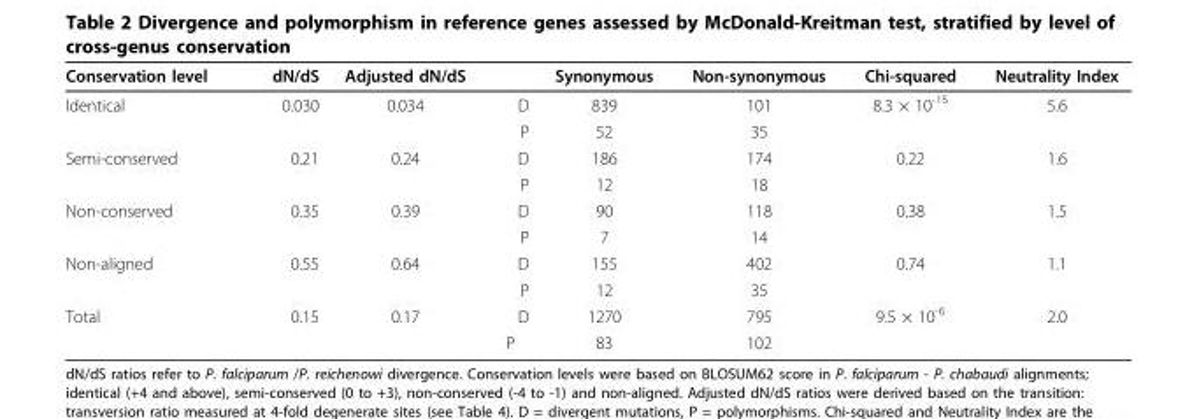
<table><thead><tr><td>Conservation level</td><td>dN/dS</td><td>Adjusted dN/dS</td><td></td><td>Synonymous</td><td>Non-synonymous</td><td>Chi-squared</td><td>Neutrality Index</td></tr></thead><tbody><tr><td rowspan="2">Identical</td><td>0.030</td><td>0.034</td><td>D</td><td>839</td><td>101</td><td>8.3 × 10<sup>-15</sup></td><td>5.6</td></tr><tr><td></td><td></td><td>P</td><td>52</td><td>35</td><td></td><td></td></tr><tr><td rowspan="2">Semi-conserved</td><td>0.21</td><td>0.24</td><td>D</td><td>186</td><td>174</td><td>0.22</td><td>1.6</td></tr><tr><td></td><td></td><td>P</td><td>12</td><td>18</td><td></td><td></td></tr><tr><td rowspan="2">Non-conserved</td><td>0.35</td><td>0.39</td><td>D</td><td>90</td><td>118</td><td>0.38</td><td>1.5</td></tr><tr><td></td><td></td><td>P</td><td>7</td><td>14</td><td></td><td></td></tr><tr><td rowspan="2">Non-aligned</td><td>0.55</td><td>0.64</td><td>D</td><td>155</td><td>402</td><td>0.74</td><td>1.1</td></tr><tr><td></td><td></td><td>P</td><td>12</td><td>35</td><td></td><td></td></tr><tr><td rowspan="2">Total</td><td>0.15</td><td>0.17</td><td>D</td><td>1270</td><td>795</td><td>9.5 × 10<sup>-6</sup></td><td>2.0</td></tr><tr><td></td><td></td><td>P</td><td>83</td><td>102</td><td></td><td></td></tr></tbody></table>